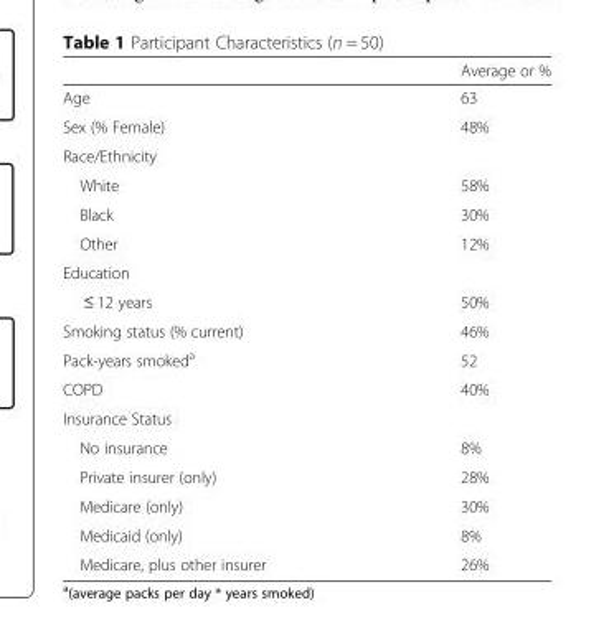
<table><thead><tr><td></td><td>Average or %</td></tr></thead><tbody><tr><td>Age</td><td>63</td></tr><tr><td>Sex (% Female)</td><td>48%</td></tr><tr><td colspan="2">Race/Ethnicity</td></tr><tr><td>White</td><td>58%</td></tr><tr><td>Black</td><td>30%</td></tr><tr><td>Other</td><td>12%</td></tr><tr><td colspan="2">Education</td></tr><tr><td>≤ 12 years</td><td>50%</td></tr><tr><td>Smoking status (% current)</td><td>46%</td></tr><tr><td>Pack-years smoked<sup>a</sup></td><td>52</td></tr><tr><td>COPD</td><td>40%</td></tr><tr><td colspan="2">Insurance Status</td></tr><tr><td>No insurance</td><td>8%</td></tr><tr><td>Private insurer (only)</td><td>28%</td></tr><tr><td>Medicare (only)</td><td>30%</td></tr><tr><td>Medicaid (only)</td><td>8%</td></tr><tr><td>Medicare, plus other insurer</td><td>26%</td></tr></tbody></table>